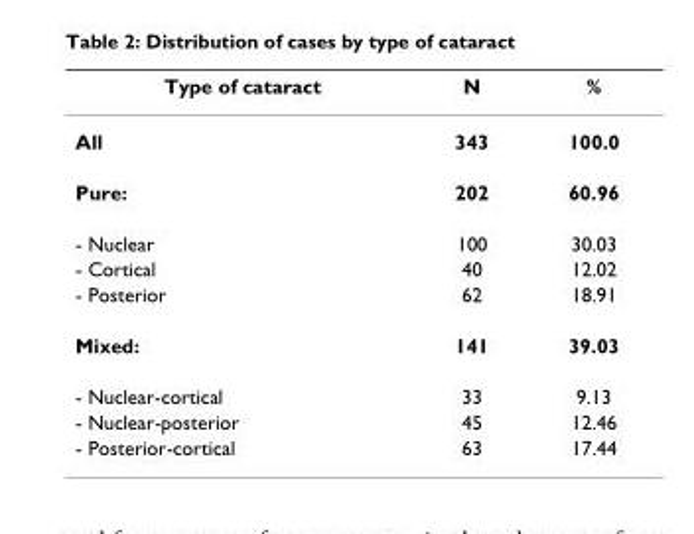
<table><thead><tr><td>Type of cataract</td><td>N</td><td>%</td></tr></thead><tbody><tr><td>All</td><td>343</td><td>100.0</td></tr><tr><td>Pure:</td><td>202</td><td>60.96</td></tr><tr><td>- Nuclear</td><td>100</td><td>30.03</td></tr><tr><td>- Cortical</td><td>40</td><td>12.02</td></tr><tr><td>- Posterior</td><td>62</td><td>18.91</td></tr><tr><td>Mixed:</td><td>141</td><td>39.03</td></tr><tr><td>- Nuclear-cortical</td><td>33</td><td>9.13</td></tr><tr><td>- Nuclear-posterior</td><td>45</td><td>12.46</td></tr><tr><td>- Posterior-cortical</td><td>63</td><td>17.44</td></tr></tbody></table>